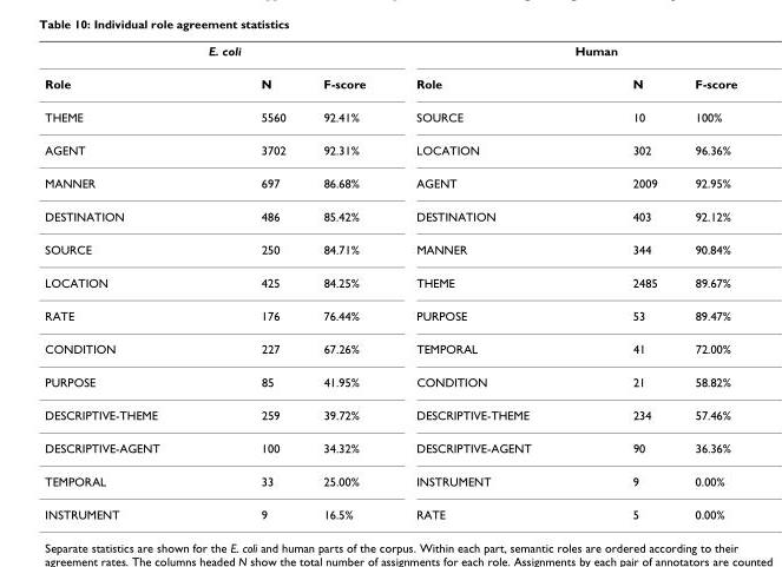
<table><tbody><tr><td colspan="3">E. coli</td><td colspan="3">Human</td></tr><tr><td>Role</td><td>N</td><td>F-score</td><td>Role</td><td>N</td><td>F-score</td></tr><tr><td>THEME</td><td>5560</td><td>92.41%</td><td>SOURCE</td><td>10</td><td>100%</td></tr><tr><td>AGENT</td><td>3702</td><td>92.31%</td><td>LOCATION</td><td>302</td><td>96.36%</td></tr><tr><td>MANNER</td><td>697</td><td>86.68%</td><td>AGENT</td><td>2009</td><td>92.95%</td></tr><tr><td>DESTINATION</td><td>486</td><td>85.42%</td><td>DESTINATION</td><td>403</td><td>92.12%</td></tr><tr><td>SOURCE</td><td>250</td><td>84.71%</td><td>MANNER</td><td>344</td><td>90.84%</td></tr><tr><td>LOCATION</td><td>425</td><td>84.25%</td><td>THEME</td><td>2485</td><td>89.67%</td></tr><tr><td>RATE</td><td>176</td><td>76.44%</td><td>PURPOSE</td><td>53</td><td>89.47%</td></tr><tr><td>CONDITION</td><td>227</td><td>67.26%</td><td>TEMPORAL</td><td>41</td><td>72.00%</td></tr><tr><td>PURPOSE</td><td>85</td><td>41.95%</td><td>CONDITION</td><td>21</td><td>58.82%</td></tr><tr><td>DESCRIPTIVE-THEME</td><td>259</td><td>39.72%</td><td>DESCRIPTIVE-THEME</td><td>234</td><td>57.46%</td></tr><tr><td>DESCRIPTIVE-AGENT</td><td>100</td><td>34.32%</td><td>DESCRIPTIVE-AGENT</td><td>90</td><td>36.36%</td></tr><tr><td>TEMPORAL</td><td>33</td><td>25.00%</td><td>INSTRUMENT</td><td>9</td><td>0.00%</td></tr><tr><td>INSTRUMENT</td><td>9</td><td>16.5%</td><td>RATE</td><td>5</td><td>0.00%</td></tr></tbody></table>